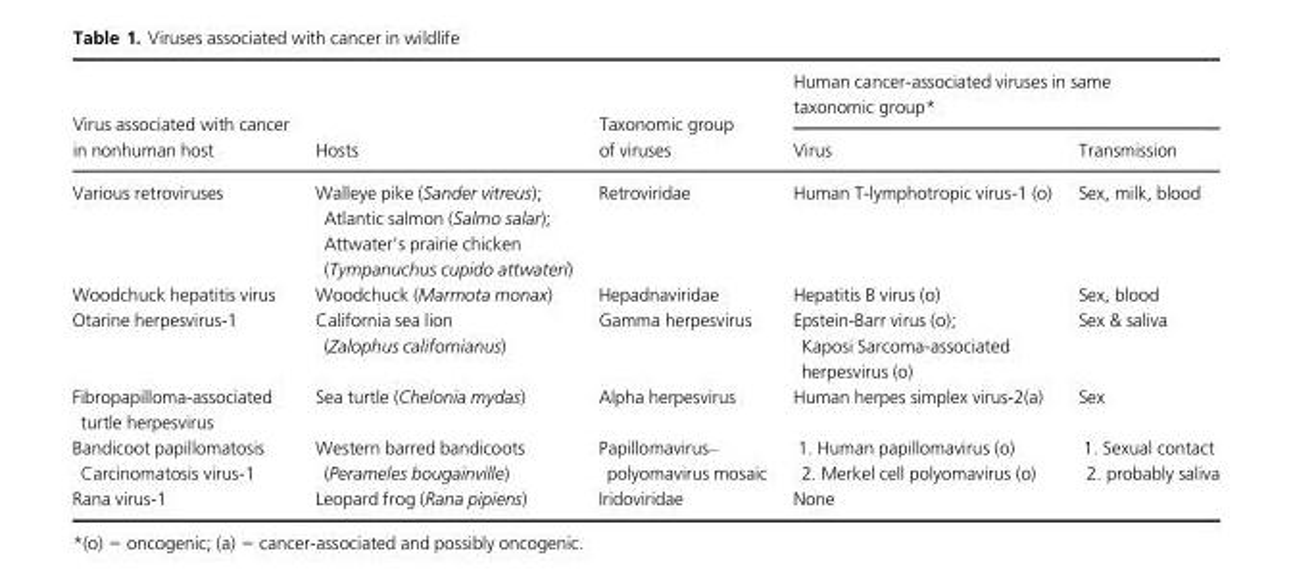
<table><thead><tr><td rowspan="2">Virus associated with cancer in nonhuman host</td><td rowspan="2">Hosts</td><td rowspan="2">Taxonomic group of viruses</td><td colspan="2">Human cancer-associated viruses in same taxonomic group*</td></tr><tr><td>Virus</td><td>Transmission</td></tr></thead><tbody><tr><td>Various retroviruses</td><td>Walleye pike (Sander vitreus); Atlantic salmon (Salmo salar); Attwater’s prairie chicken (Tympanuchus cupido attwateri)</td><td>Retroviridae</td><td>Human T-lymphotropic virus-1 (o)</td><td>Sex, milk, blood</td></tr><tr><td>Woodchuck hepatitis virus</td><td>Woodchuck (Marmota monax)</td><td>Hepadnaviridae</td><td>Hepatitis B virus (o)</td><td>Sex, blood</td></tr><tr><td>Otarine herpesvirus-1</td><td>California sea lion (Zalophus californianus)</td><td>Gamma herpesvirus</td><td>Epstein-Barr virus (o); Kaposi Sarcoma-associated herpesvirus (o)</td><td>Sex &amp; saliva</td></tr><tr><td>Fibropapilloma-associated turtle herpesvirus</td><td>Sea turtle (Chelonia mydas)</td><td>Alpha herpesvirus</td><td>Human herpes simplex virus-2(a)</td><td>Sex</td></tr><tr><td>Bandicoot papillomatosis Carcinomatosis virus-1</td><td>Western barred bandicoots (Perameles bougainville)</td><td>Papillomavirus– polyomavirus mosaic</td><td>1. Human papillomavirus (o) 2. Merkel cell polyomavirus (o)</td><td>1. Sexual contact 2. probably saliva</td></tr><tr><td>Rana virus-1</td><td>Leopard frog (Rana pipiens)</td><td>Iridoviridae</td><td>None</td><td></td></tr></tbody></table>